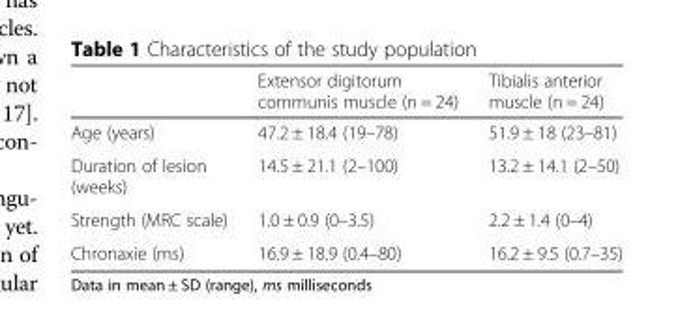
<table><thead><tr><td></td><td>Extensor digitorum communis muscle (n = 24)</td><td>Tibialis anterior muscle (n = 24)</td></tr></thead><tbody><tr><td>Age (years)</td><td>47.2 ± 18.4 (19–78)</td><td>51.9 ± 18 (23–81)</td></tr><tr><td>Duration of lesion (weeks)</td><td>14.5 ± 21.1 (2–100)</td><td>13.2 ± 14.1 (2–50)</td></tr><tr><td>Strength (MRC scale)</td><td>1.0 ± 0.9 (0–3.5)</td><td>2.2 ± 1.4 (0–4)</td></tr><tr><td>Chronaxie (ms)</td><td>16.9 ± 18.9 (0.4–80)</td><td>16.2 ± 9.5 (0.7–35)</td></tr></tbody></table>